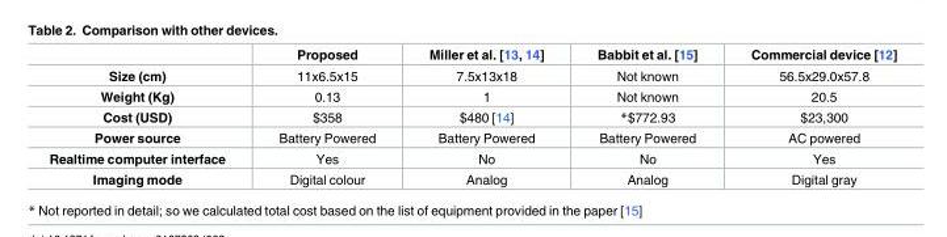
<table><thead><tr><td></td><td>Proposed</td><td>Miller et al. [13, 14]</td><td>Babbit et al. [15]</td><td>Commercial device [12]</td></tr></thead><tbody><tr><td>Size (cm)</td><td>11x6.5x15</td><td>7.5x13x18</td><td>Not known</td><td>56.5x29.0x57.8</td></tr><tr><td>Weight (Kg)</td><td>0.13</td><td>1</td><td>Not known</td><td>20.5</td></tr><tr><td>Cost (USD)</td><td>$358</td><td>$480 [14]</td><td>*$772.93</td><td>$23,300</td></tr><tr><td>Power source</td><td>Battery Powered</td><td>Battery Powered</td><td>Battery Powered</td><td>AC powered</td></tr><tr><td>Realtime computer interface</td><td>Yes</td><td>No</td><td>No</td><td>Yes</td></tr><tr><td>Imaging mode</td><td>Digital colour</td><td>Analog</td><td>Analog</td><td>Digital gray</td></tr></tbody></table>